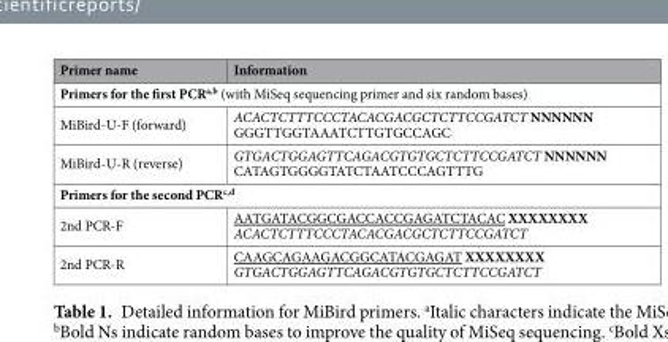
<table><thead><tr><td>Primer name</td><td>Information</td></tr></thead><tbody><tr><td colspan="2">Primers for the first PCR<sup>a,b</sup> (with MiSeq sequencing primer and six random bases)</td></tr><tr><td>MiBird-U-F (forward)</td><td>ACACTCTTTCCCTACACGACGCTCTTCCGATCT NNNNNN GGGTTGGTAAATCTTGTGCCAGC</td></tr><tr><td>MiBird-U-R (reverse)</td><td>GTGACTGGAGTTCAGACGTGTGCTCTTCCGATCT NNNNNN CATAGTGGGGTATCTAATCCCAGTTTG</td></tr><tr><td colspan="2">Primers for the second PCR<sup>c,d</sup></td></tr><tr><td>2nd PCR-F</td><td>AATGATACGGCGACCACCGAGATCTACAC XXXXXXXX ACACTCTTTCCCTACACGACGCTCTTCCGATCT</td></tr><tr><td>2nd PCR-R</td><td>CAAGCAGAAGACGGCATACGAGAT XXXXXXXX GTGACTGGAGTTCAGACGTGTGCTCTTCCGATCT</td></tr></tbody></table>